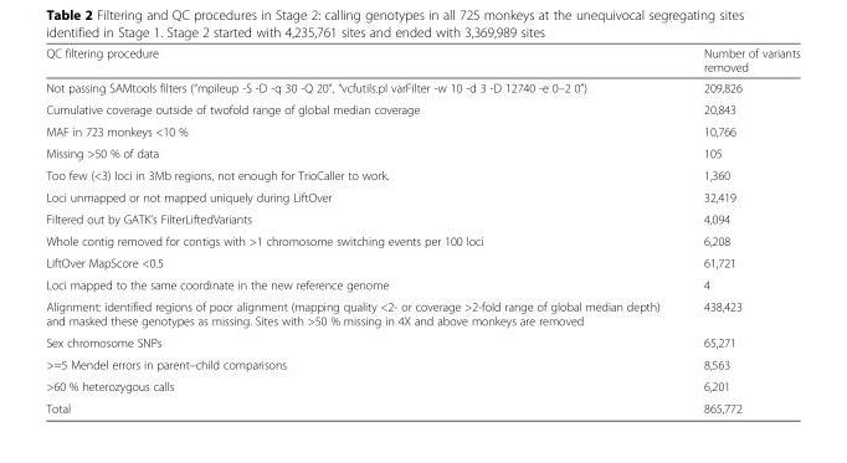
<table><thead><tr><td>QC filtering procedure</td><td>Number of variants removed</td></tr></thead><tbody><tr><td>Not passing SAMtools filters (“mpileup -S -D -q 30 -Q 20”, “vcfutils.pl varFilter -w 10 -d 3 -D 12740 -e 0–2 0”)</td><td>209,826</td></tr><tr><td>Cumulative coverage outside of twofold range of global median coverage</td><td>20,843</td></tr><tr><td>MAF in 723 monkeys &lt;10 %</td><td>10,766</td></tr><tr><td>Missing &gt;50 % of data</td><td>105</td></tr><tr><td>Too few (&lt;3) loci in 3Mb regions, not enough for TrioCaller to work.</td><td>1,360</td></tr><tr><td>Loci unmapped or not mapped uniquely during LiftOver</td><td>32,419</td></tr><tr><td>Filtered out by GATK’s FilterLiftedVariants</td><td>4,094</td></tr><tr><td>Whole contig removed for contigs with &gt;1 chromosome switching events per 100 loci</td><td>6,208</td></tr><tr><td>LiftOver MapScore &lt;0.5</td><td>61,721</td></tr><tr><td>Loci mapped to the same coordinate in the new reference genome</td><td>4</td></tr><tr><td>Alignment: identified regions of poor alignment (mapping quality &lt;2- or coverage &gt;2-fold range of global median depth) and masked these genotypes as missing. Sites with &gt;50 % missing in 4X and above monkeys are removed</td><td>438,423</td></tr><tr><td>Sex chromosome SNPs</td><td>65,271</td></tr><tr><td>&gt;=5 Mendel errors in parent–child comparisons</td><td>8,563</td></tr><tr><td>&gt;60 % heterozygous calls</td><td>6,201</td></tr><tr><td>Total</td><td>865,772</td></tr></tbody></table>